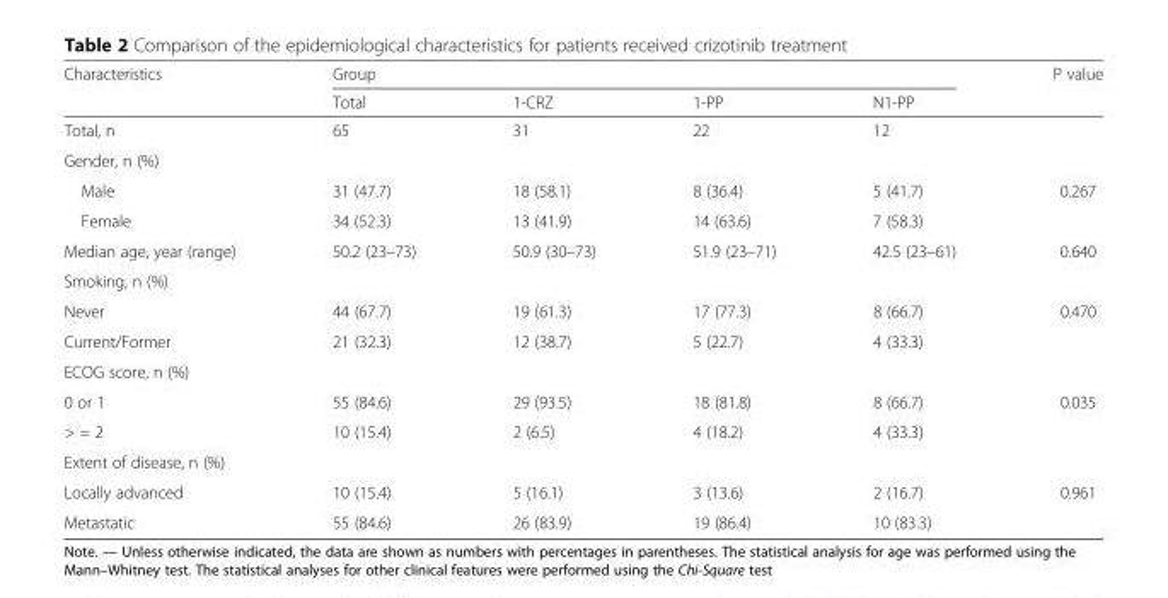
<table><thead><tr><td rowspan="2">Characteristics</td><td colspan="4">Group</td><td rowspan="2">P value</td></tr><tr><td>Total</td><td>1-CRZ</td><td>1-PP</td><td>N1-PP</td></tr></thead><tbody><tr><td>Total, n</td><td>65</td><td>31</td><td>22</td><td>12</td><td></td></tr><tr><td colspan="6">Gender, n (%)</td></tr><tr><td>Male</td><td>31 (47.7)</td><td>18 (58.1)</td><td>8 (36.4)</td><td>5 (41.7)</td><td>0.267</td></tr><tr><td>Female</td><td>34 (52.3)</td><td>13 (41.9)</td><td>14 (63.6)</td><td>7 (58.3)</td><td></td></tr><tr><td>Median age, year (range)</td><td>50.2 (23–73)</td><td>50.9 (30–73)</td><td>51.9 (23–71)</td><td>42.5 (23–61)</td><td>0.640</td></tr><tr><td colspan="6">Smoking, n (%)</td></tr><tr><td>Never</td><td>44 (67.7)</td><td>19 (61.3)</td><td>17 (77.3)</td><td>8 (66.7)</td><td>0.470</td></tr><tr><td>Current/Former</td><td>21 (32.3)</td><td>12 (38.7)</td><td>5 (22.7)</td><td>4 (33.3)</td><td></td></tr><tr><td colspan="6">ECOG score, n (%)</td></tr><tr><td>0 or 1</td><td>55 (84.6)</td><td>29 (93.5)</td><td>18 (81.8)</td><td>8 (66.7)</td><td>0.035</td></tr><tr><td>&gt; = 2</td><td>10 (15.4)</td><td>2 (6.5)</td><td>4 (18.2)</td><td>4 (33.3)</td><td></td></tr><tr><td colspan="6">Extent of disease, n (%)</td></tr><tr><td>Locally advanced</td><td>10 (15.4)</td><td>5 (16.1)</td><td>3 (13.6)</td><td>2 (16.7)</td><td>0.961</td></tr><tr><td>Metastatic</td><td>55 (84.6)</td><td>26 (83.9)</td><td>19 (86.4)</td><td>10 (83.3)</td><td></td></tr></tbody></table>